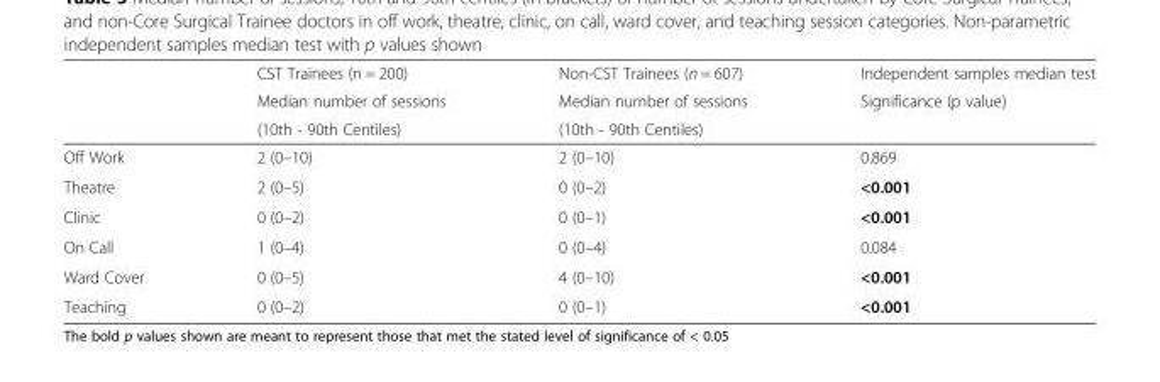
<table><thead><tr><td rowspan="3"></td><td rowspan="3">CST Trainees (n = 200) Median number of sessions (10th - 90th Centiles)</td><td rowspan="3">Non-CST Trainees (n = 607) Median number of sessions (10th - 90th Centiles)</td><td rowspan="3">Independent samples median test Significance (p value)</td></tr><tr></tr><tr></tr></thead><tbody><tr><td>Off Work</td><td>2 (0–10)</td><td>2 (0–10)</td><td>0.869</td></tr><tr><td>Theatre</td><td>2 (0–5)</td><td>0 (0–2)</td><td>&lt;0.001</td></tr><tr><td>Clinic</td><td>0 (0–2)</td><td>0 (0–1)</td><td>&lt;0.001</td></tr><tr><td>On Call</td><td>1 (0–4)</td><td>0 (0–4)</td><td>0.084</td></tr><tr><td>Ward Cover</td><td>0 (0–5)</td><td>4 (0–10)</td><td>&lt;0.001</td></tr><tr><td>Teaching</td><td>0 (0–2)</td><td>0 (0–1)</td><td>&lt;0.001</td></tr></tbody></table>